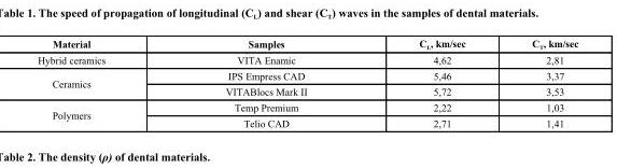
<table><thead><tr><td>Material</td><td>Samples</td><td>C<sub>L</sub>, km/sec</td><td>C<sub>T</sub>, km/sec</td></tr></thead><tbody><tr><td>Hybrid ceramics</td><td>VITA Enamic</td><td>4,62</td><td>2,81</td></tr><tr><td rowspan="2">Ceramics</td><td>IPS Empress CAD</td><td>5,46</td><td>3,37</td></tr><tr><td>VITABlocs Mark II</td><td>5,72</td><td>3,53</td></tr><tr><td rowspan="2">Polymers</td><td>Temp Premium</td><td>2,22</td><td>1,03</td></tr><tr><td>Telio CAD</td><td>2,71</td><td>1,41</td></tr></tbody></table>